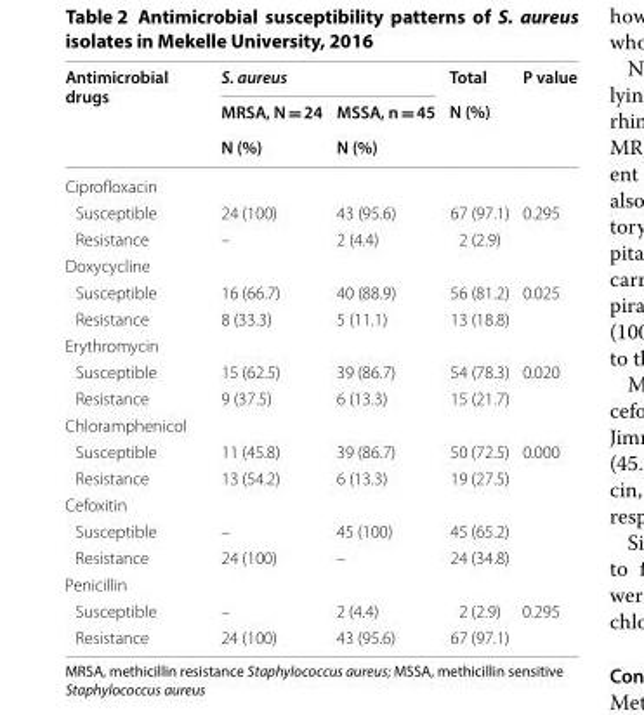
<table><thead><tr><td rowspan="3">Antimicrobial drugs</td><td colspan="2">S. aureus</td><td rowspan="3">Total N (%)</td><td rowspan="3">P value</td></tr><tr><td rowspan="2">MRSA, N = 24 N (%)</td><td rowspan="2">MSSA, n = 45 N (%)</td></tr><tr></tr></thead><tbody><tr><td colspan="5">Ciprofloxacin</td></tr><tr><td>Susceptible</td><td>24 (100)</td><td>43 (95.6)</td><td>67 (97.1)</td><td>0.295</td></tr><tr><td>Resistance</td><td>–</td><td>2 (4.4)</td><td>2 (2.9)</td><td></td></tr><tr><td colspan="5">Doxycycline</td></tr><tr><td>Susceptible</td><td>16 (66.7)</td><td>40 (88.9)</td><td>56 (81.2)</td><td>0.025</td></tr><tr><td>Resistance</td><td>8 (33.3)</td><td>5 (11.1)</td><td>13 (18.8)</td><td></td></tr><tr><td colspan="5">Erythromycin</td></tr><tr><td>Susceptible</td><td>15 (62.5)</td><td>39 (86.7)</td><td>54 (78.3)</td><td>0.020</td></tr><tr><td>Resistance</td><td>9 (37.5)</td><td>6 (13.3)</td><td>15 (21.7)</td><td></td></tr><tr><td colspan="5">Chloramphenicol</td></tr><tr><td>Susceptible</td><td>11 (45.8)</td><td>39 (86.7)</td><td>50 (72.5)</td><td>0.000</td></tr><tr><td>Resistance</td><td>13 (54.2)</td><td>6 (13.3)</td><td>19 (27.5)</td><td></td></tr><tr><td colspan="5">Cefoxitin</td></tr><tr><td>Susceptible</td><td>–</td><td>45 (100)</td><td>45 (65.2)</td><td></td></tr><tr><td>Resistance</td><td>24 (100)</td><td>–</td><td>24 (34.8)</td><td></td></tr><tr><td colspan="5">Penicillin</td></tr><tr><td>Susceptible</td><td>–</td><td>2 (4.4)</td><td>2 (2.9)</td><td>0.295</td></tr><tr><td>Resistance</td><td>24 (100)</td><td>43 (95.6)</td><td>67 (97.1)</td><td></td></tr></tbody></table>